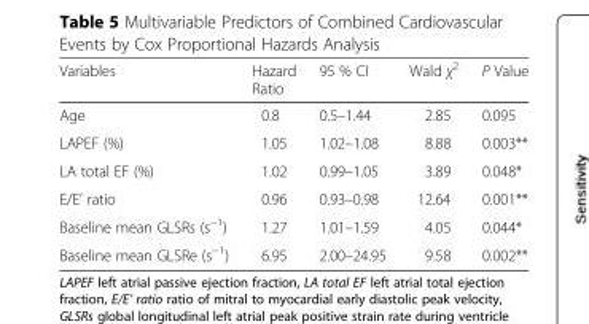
<table><thead><tr><td>Variables</td><td>Hazard Ratio</td><td>95 % CI</td><td>Wald χ<sup>2</sup></td><td>P Value</td></tr></thead><tbody><tr><td>Age</td><td>0.8</td><td>0.5–1.44</td><td>2.85</td><td>0.095</td></tr><tr><td>LAPEF (%)</td><td>1.05</td><td>1.02–1.08</td><td>8.88</td><td>0.003**</td></tr><tr><td>LA total EF (%)</td><td>1.02</td><td>0.99–1.05</td><td>3.89</td><td>0.048*</td></tr><tr><td>E/E’ ratio</td><td>0.96</td><td>0.93–0.98</td><td>12.64</td><td>0.001**</td></tr><tr><td>Baseline mean GLSRs (s<sup>−1</sup>)</td><td>1.27</td><td>1.01–1.59</td><td>4.05</td><td>0.044*</td></tr><tr><td>Baseline mean GLSRe (s<sup>−1</sup>)</td><td>6.95</td><td>2.00–24.95</td><td>9.58</td><td>0.002**</td></tr></tbody></table>